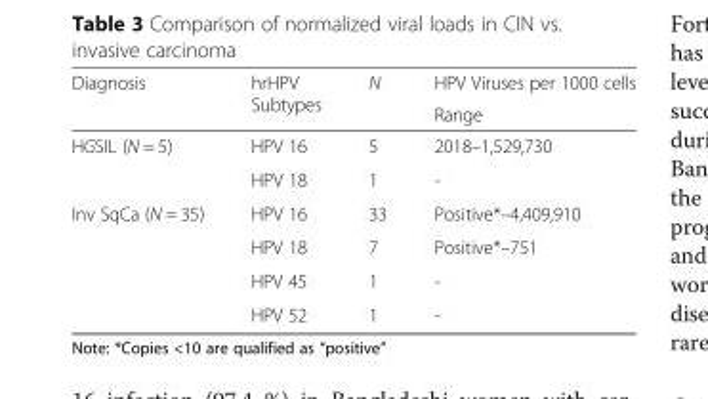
<table><thead><tr><td rowspan="2">Diagnosis</td><td rowspan="2">hrHPV Subtypes</td><td rowspan="2">N</td><td rowspan="2">HPV Viruses per 1000 cells Range</td></tr><tr></tr></thead><tbody><tr><td rowspan="2">HGSIL (N = 5)</td><td>HPV 16</td><td>5</td><td>2018–1,529,730</td></tr><tr><td>HPV 18</td><td>1</td><td>-</td></tr><tr><td rowspan="4">Inv SqCa (N = 35)</td><td>HPV 16</td><td>33</td><td>Positive*–4,409,910</td></tr><tr><td>HPV 18</td><td>7</td><td>Positive*–751</td></tr><tr><td>HPV 45</td><td>1</td><td>-</td></tr><tr><td>HPV 52</td><td>1</td><td>-</td></tr></tbody></table>